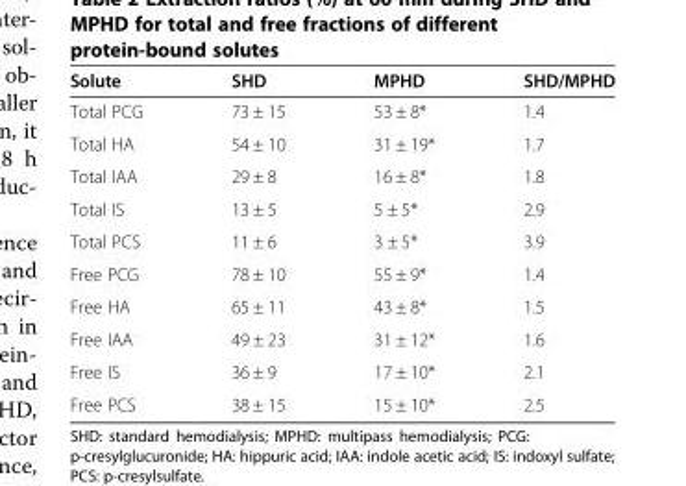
<table><thead><tr><td>Solute</td><td>SHD</td><td>MPHD</td><td>SHD/MPHD</td></tr></thead><tbody><tr><td>Total PCG</td><td>73 ± 15</td><td>53 ± 8*</td><td>1.4</td></tr><tr><td>Total HA</td><td>54 ± 10</td><td>31 ± 19*</td><td>1.7</td></tr><tr><td>Total IAA</td><td>29 ± 8</td><td>16 ± 8*</td><td>1.8</td></tr><tr><td>Total IS</td><td>13 ± 5</td><td>5 ± 5*</td><td>2.9</td></tr><tr><td>Total PCS</td><td>11 ± 6</td><td>3 ± 5*</td><td>3.9</td></tr><tr><td>Free PCG</td><td>78 ± 10</td><td>55 ± 9*</td><td>1.4</td></tr><tr><td>Free HA</td><td>65 ± 11</td><td>43 ± 8*</td><td>1.5</td></tr><tr><td>Free IAA</td><td>49 ± 23</td><td>31 ± 12*</td><td>1.6</td></tr><tr><td>Free IS</td><td>36 ± 9</td><td>17 ± 10*</td><td>2.1</td></tr><tr><td>Free PCS</td><td>38 ± 15</td><td>15 ± 10*</td><td>2.5</td></tr></tbody></table>